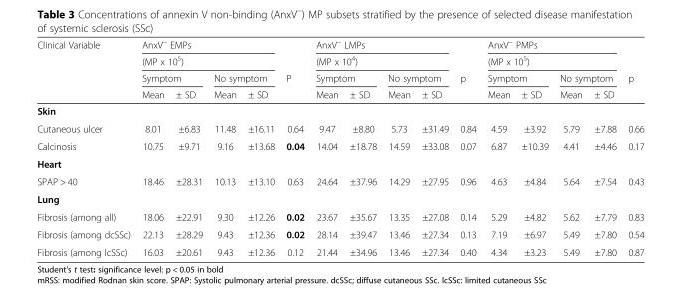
<table><thead><tr><td rowspan="4">Clinical Variable</td><td rowspan="2" colspan="4">AnxV<sup>−</sup> EMPs (MP x 10<sup>5</sup>)</td><td rowspan="4">P</td><td rowspan="2" colspan="4">AnxV<sup>−</sup> LMPs (MP x 10<sup>4</sup>)</td><td rowspan="4">p</td><td rowspan="2" colspan="4">AnxV<sup>−</sup> PMPs (MP x 10<sup>5</sup>)</td><td rowspan="4">p</td></tr><tr></tr><tr><td colspan="2">Symptom</td><td colspan="2">No symptom</td><td colspan="2">Symptom</td><td colspan="2">No symptom</td><td colspan="2">Symptom</td><td colspan="2">No symptom</td></tr><tr><td>Mean</td><td>± SD</td><td>Mean</td><td>± SD</td><td>Mean</td><td>± SD</td><td>Mean</td><td>± SD</td><td>Mean</td><td>± SD</td><td>Mean</td><td>± SD</td></tr></thead><tbody><tr><td colspan="16">Skin</td></tr><tr><td>Cutaneous ulcer</td><td>8.01</td><td>±6.83</td><td>11.48</td><td>±16.11</td><td>0.64</td><td>9.47</td><td>±8.80</td><td>5.73</td><td>±31.49</td><td>0.84</td><td>4.59</td><td>±3.92</td><td>5.79</td><td>±7.88</td><td>0.66</td></tr><tr><td>Calcinosis</td><td>10.75</td><td>±9.71</td><td>9.16</td><td>±13.68</td><td>0.04</td><td>14.04</td><td>±18.78</td><td>14.59</td><td>±33.08</td><td>0.07</td><td>6.87</td><td>±10.39</td><td>4.41</td><td>±4.46</td><td>0.17</td></tr><tr><td colspan="16">Heart</td></tr><tr><td>SPAP &gt; 40</td><td>18.46</td><td>±28.31</td><td>10.13</td><td>±13.10</td><td>0.63</td><td>24.64</td><td>±37.96</td><td>14.29</td><td>±27.95</td><td>0.96</td><td>4.63</td><td>±4.84</td><td>5.64</td><td>±7.54</td><td>0.43</td></tr><tr><td colspan="16">Lung</td></tr><tr><td>Fibrosis (among all)</td><td>18.06</td><td>±22.91</td><td>9.30</td><td>±12.26</td><td>0.02</td><td>23.67</td><td>±35.67</td><td>13.35</td><td>±27.08</td><td>0.14</td><td>5.29</td><td>±4.82</td><td>5.62</td><td>±7.79</td><td>0.83</td></tr><tr><td>Fibrosis (among dcSSc)</td><td>22.13</td><td>±28.29</td><td>9.43</td><td>±12.36</td><td>0.02</td><td>28.14</td><td>±39.47</td><td>13.46</td><td>±27.34</td><td>0.13</td><td>7.19</td><td>±6.97</td><td>5.49</td><td>±7.80</td><td>0.54</td></tr><tr><td>Fibrosis (among lcSSc)</td><td>16.03</td><td>±20.61</td><td>9.43</td><td>±12.36</td><td>0.12</td><td>21.44</td><td>±34.96</td><td>13.46</td><td>±27.34</td><td>0.40</td><td>4.34</td><td>±3.23</td><td>5.49</td><td>±7.80</td><td>0.87</td></tr></tbody></table>